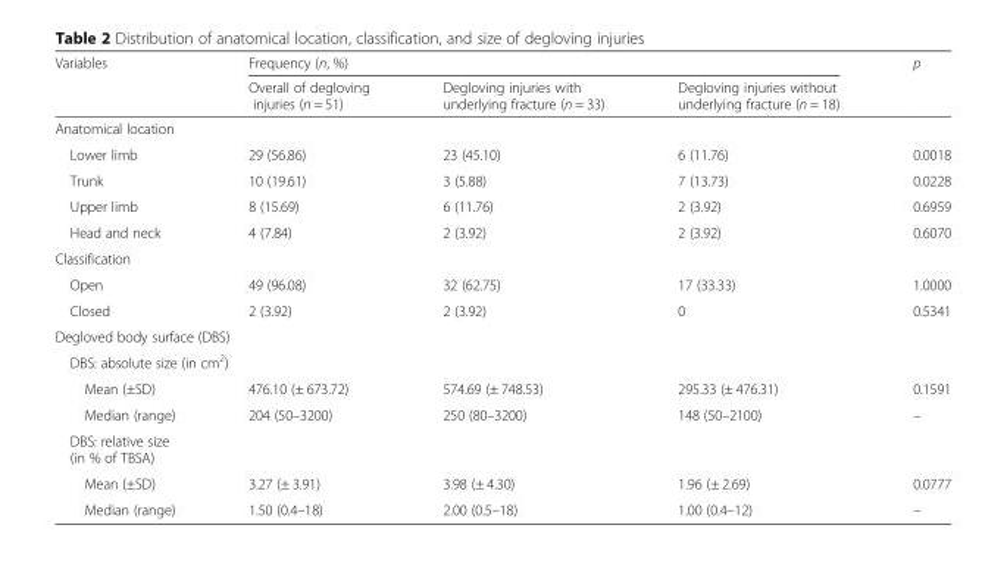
<table><thead><tr><td rowspan="2">Variables</td><td colspan="3">Frequency (n, %)</td><td rowspan="2">p</td></tr><tr><td>Overall of degloving injuries (n = 51)</td><td>Degloving injuries with underlying fracture (n = 33)</td><td>Degloving injuries without underlying fracture (n = 18)</td></tr></thead><tbody><tr><td colspan="5">Anatomical location</td></tr><tr><td>Lower limb</td><td>29 (56.86)</td><td>23 (45.10)</td><td>6 (11.76)</td><td>0.0018</td></tr><tr><td>Trunk</td><td>10 (19.61)</td><td>3 (5.88)</td><td>7 (13.73)</td><td>0.0228</td></tr><tr><td>Upper limb</td><td>8 (15.69)</td><td>6 (11.76)</td><td>2 (3.92)</td><td>0.6959</td></tr><tr><td>Head and neck</td><td>4 (7.84)</td><td>2 (3.92)</td><td>2 (3.92)</td><td>0.6070</td></tr><tr><td colspan="5">Classification</td></tr><tr><td>Open</td><td>49 (96.08)</td><td>32 (62.75)</td><td>17 (33.33)</td><td>1.0000</td></tr><tr><td>Closed</td><td>2 (3.92)</td><td>2 (3.92)</td><td>0</td><td>0.5341</td></tr><tr><td colspan="5">Degloved body surface (DBS)</td></tr><tr><td colspan="5">DBS: absolute size (in cm<sup>2</sup>)</td></tr><tr><td>Mean (±SD)</td><td>476.10 (± 673.72)</td><td>574.69 (± 748.53)</td><td>295.33 (± 476.31)</td><td>0.1591</td></tr><tr><td>Median (range)</td><td>204 (50–3200)</td><td>250 (80–3200)</td><td>148 (50–2100)</td><td>–</td></tr><tr><td colspan="5">DBS: relative size (in % of TBSA)</td></tr><tr><td>Mean (±SD)</td><td>3.27 (± 3.91)</td><td>3.98 (± 4.30)</td><td>1.96 (± 2.69)</td><td>0.0777</td></tr><tr><td>Median (range)</td><td>1.50 (0.4–18)</td><td>2.00 (0.5–18)</td><td>1.00 (0.4–12)</td><td>–</td></tr></tbody></table>